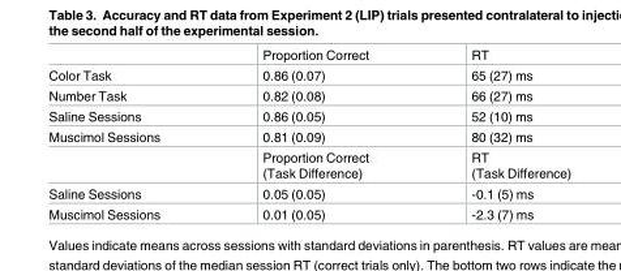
<table><thead><tr><td></td><td>Proportion Correct</td><td>RT</td></tr></thead><tbody><tr><td>Color Task</td><td>0.86 (0.07)</td><td>65 (27) ms</td></tr><tr><td>Number Task</td><td>0.82 (0.08)</td><td>66 (27) ms</td></tr><tr><td>Saline Sessions</td><td>0.86 (0.05)</td><td>52 (10) ms</td></tr><tr><td rowspan="2">Muscimol Sessions</td><td>0.81 (0.09)</td><td>80 (32) ms</td></tr><tr><td>Proportion Correct (Task Difference)</td><td>RT (Task Difference)</td></tr><tr><td>Saline Sessions</td><td>0.05 (0.05)</td><td>-0.1 (5) ms</td></tr><tr><td>Muscimol Sessions</td><td>0.01 (0.05)</td><td>-2.3 (7) ms</td></tr></tbody></table>